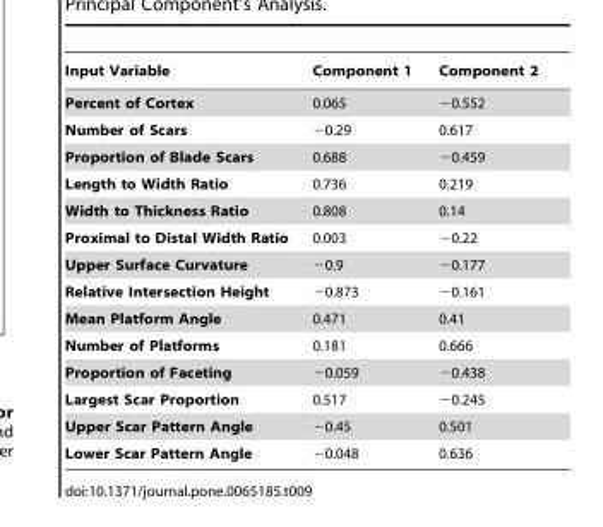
<table><thead><tr><td>Input Variable</td><td>Component 1</td><td>Component 2</td></tr></thead><tbody><tr><td>Percent of Cortex</td><td>0.065</td><td>−0.552</td></tr><tr><td>Number of Scars</td><td>−0.29</td><td>0.617</td></tr><tr><td>Proportion of Blade Scars</td><td>0.688</td><td>−0.459</td></tr><tr><td>Length to Width Ratio</td><td>0.736</td><td>0.219</td></tr><tr><td>Width to Thickness Ratio</td><td>0.808</td><td>0.14</td></tr><tr><td>Proximal to Distal Width Ratio</td><td>0.003</td><td>−0.22</td></tr><tr><td>Upper Surface Curvature</td><td>−0.9</td><td>−0.177</td></tr><tr><td>Relative Intersection Height</td><td>−0.873</td><td>−0.161</td></tr><tr><td>Mean Platform Angle</td><td>0.471</td><td>0.41</td></tr><tr><td>Number of Platforms</td><td>0.181</td><td>0.666</td></tr><tr><td>Proportion of Faceting</td><td>−0.059</td><td>−0.438</td></tr><tr><td>Largest Scar Proportion</td><td>0.517</td><td>−0.245</td></tr><tr><td>Upper Scar Pattern Angle</td><td>−0.45</td><td>0.501</td></tr><tr><td>Lower Scar Pattern Angle</td><td>−0.048</td><td>0.636</td></tr></tbody></table>